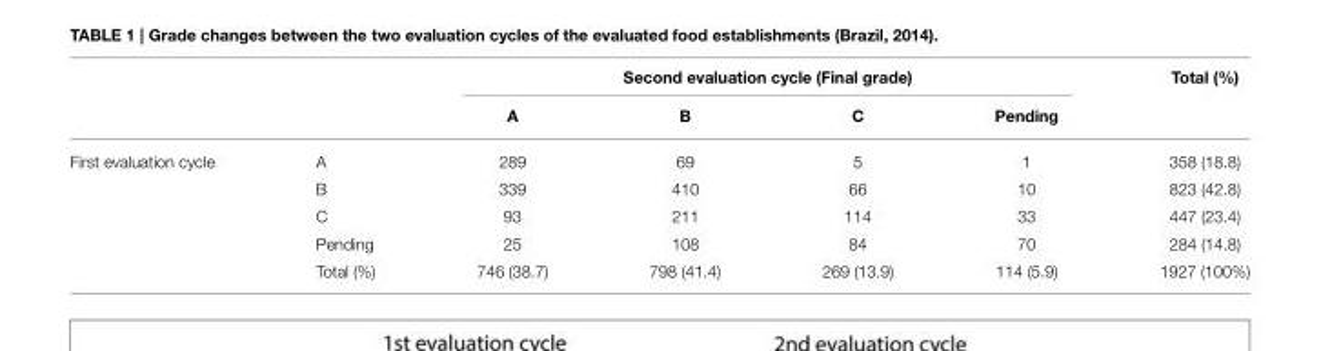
<table><thead><tr><td rowspan="2"></td><td rowspan="2"></td><td colspan="4">Second evaluation cycle (Final grade)</td><td rowspan="2">Total (%)</td></tr><tr><td>A</td><td>B</td><td>C</td><td>Pending</td></tr></thead><tbody><tr><td rowspan="5">First evaluation cycle</td><td>A</td><td>289</td><td>69</td><td>5</td><td>1</td><td>358 (18.8)</td></tr><tr><td>B</td><td>339</td><td>410</td><td>66</td><td>10</td><td>823 (42.8)</td></tr><tr><td>C</td><td>93</td><td>211</td><td>114</td><td>33</td><td>447 (23.4)</td></tr><tr><td>Pending</td><td>25</td><td>108</td><td>84</td><td>70</td><td>284 (14.8)</td></tr><tr><td>Total (%)</td><td>746 (38.7)</td><td>798 (41.4)</td><td>269 (13.9)</td><td>114 (5.9)</td><td>1927 (100%)</td></tr></tbody></table>